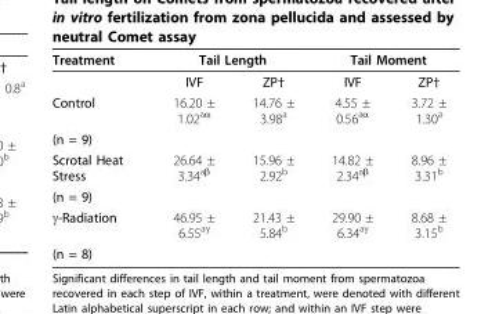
<table><thead><tr><td rowspan="2">Treatment</td><td colspan="2">Tail Length</td><td colspan="2">Tail Moment</td></tr><tr><td>IVF</td><td>ZP†</td><td>IVF</td><td>ZP†</td></tr></thead><tbody><tr><td>Control</td><td>16.20 ± 1.02<sup>aα</sup></td><td>14.76 ± 3.98<sup>a</sup></td><td>4.55 ± 0.56<sup>aα</sup></td><td>3.72 ± 1.30<sup>a</sup></td></tr><tr><td colspan="5">(n = 9)</td></tr><tr><td>Scrotal Heat Stress</td><td>26.64 ± 3.34<sup>aβ</sup></td><td>15.96 ± 2.92<sup>b</sup></td><td>14.82 ± 2.34<sup>aβ</sup></td><td>8.96 ± 3.31<sup>b</sup></td></tr><tr><td colspan="5">(n = 9)</td></tr><tr><td>γ-Radiation</td><td>46.95 ± 6.55<sup>aγ</sup></td><td>21.43 ± 5.84<sup>b</sup></td><td>29.90 ± 6.34<sup>aγ</sup></td><td>8.68 ± 3.15<sup>b</sup></td></tr><tr><td>(n = 8)</td><td></td><td></td><td></td><td></td></tr></tbody></table>